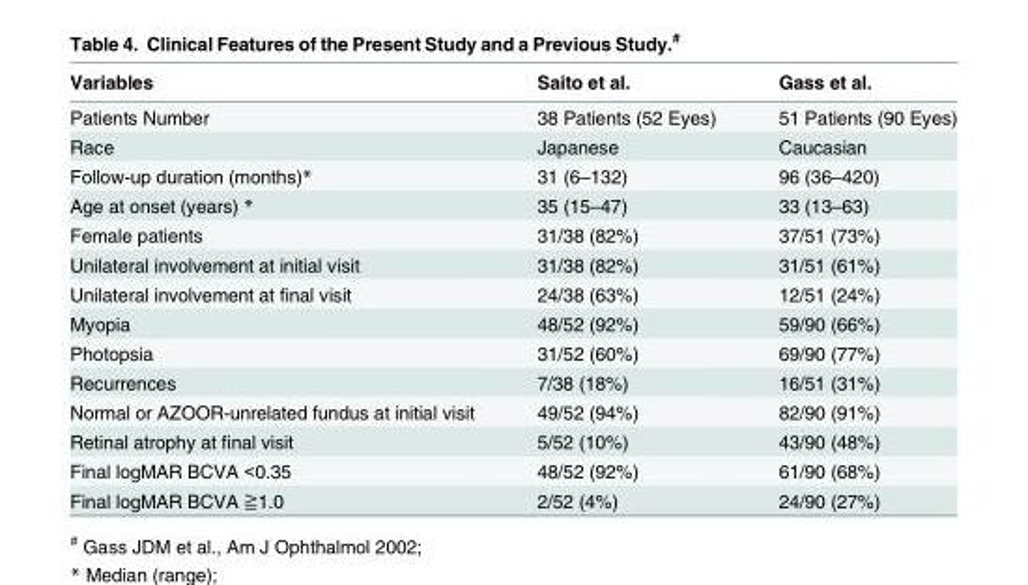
<table><thead><tr><td>Variables</td><td>Saito et al.</td><td>Gass et al.</td></tr></thead><tbody><tr><td>Patients Number</td><td>38 Patients (52 Eyes)</td><td>51 Patients (90 Eyes)</td></tr><tr><td>Race</td><td>Japanese</td><td>Caucasian</td></tr><tr><td>Follow-up duration (months)*</td><td>31 (6–132)</td><td>96 (36–420)</td></tr><tr><td>Age at onset (years) *</td><td>35 (15–47)</td><td>33 (13–63)</td></tr><tr><td>Female patients</td><td>31/38 (82%)</td><td>37/51 (73%)</td></tr><tr><td>Unilateral involvement at initial visit</td><td>31/38 (82%)</td><td>31/51 (61%)</td></tr><tr><td>Unilateral involvement at final visit</td><td>24/38 (63%)</td><td>12/51 (24%)</td></tr><tr><td>Myopia</td><td>48/52 (92%)</td><td>59/90 (66%)</td></tr><tr><td>Photopsia</td><td>31/52 (60%)</td><td>69/90 (77%)</td></tr><tr><td>Recurrences</td><td>7/38 (18%)</td><td>16/51 (31%)</td></tr><tr><td>Normal or AZOOR-unrelated fundus at initial visit</td><td>49/52 (94%)</td><td>82/90 (91%)</td></tr><tr><td>Retinal atrophy at final visit</td><td>5/52 (10%)</td><td>43/90 (48%)</td></tr><tr><td>Final logMAR BCVA &lt;0.35</td><td>48/52 (92%)</td><td>61/90 (68%)</td></tr><tr><td>Final logMAR BCVA ≧1.0</td><td>2/52 (4%)</td><td>24/90 (27%)</td></tr></tbody></table>